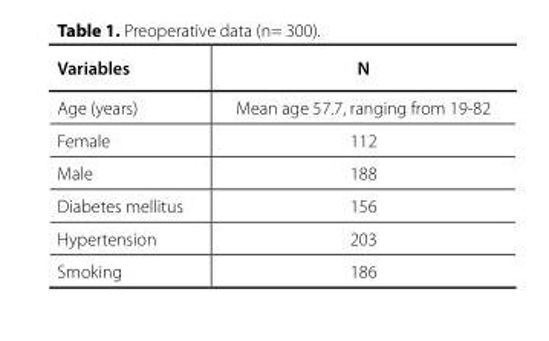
<table><thead><tr><td>Variables</td><td>N</td></tr></thead><tbody><tr><td>Age (years)</td><td>Mean age 57.7, ranging from 19-82</td></tr><tr><td>Female</td><td>112</td></tr><tr><td>Male</td><td>188</td></tr><tr><td>Diabetes mellitus</td><td>156</td></tr><tr><td>Hypertension</td><td>203</td></tr><tr><td>Smoking</td><td>186</td></tr></tbody></table>